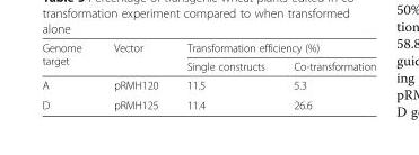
<table><thead><tr><td rowspan="2">Genome target</td><td rowspan="2">Vector</td><td colspan="2">Transformation efficiency (%)</td></tr><tr><td>Single constructs</td><td>Co-transformation</td></tr></thead><tbody><tr><td>A</td><td>pRMH120</td><td>11.5</td><td>5.3</td></tr><tr><td>D</td><td>pRMH125</td><td>11.4</td><td>26.6</td></tr></tbody></table>